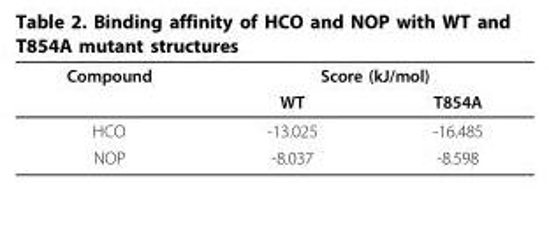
<table><thead><tr><td rowspan="2">Compound</td><td colspan="2">Score (kJ/mol)</td></tr><tr><td>WT</td><td>T854A</td></tr></thead><tbody><tr><td>HCO</td><td>-13.025</td><td>-16.485</td></tr><tr><td>NOP</td><td>-8.037</td><td>-8.598</td></tr></tbody></table>